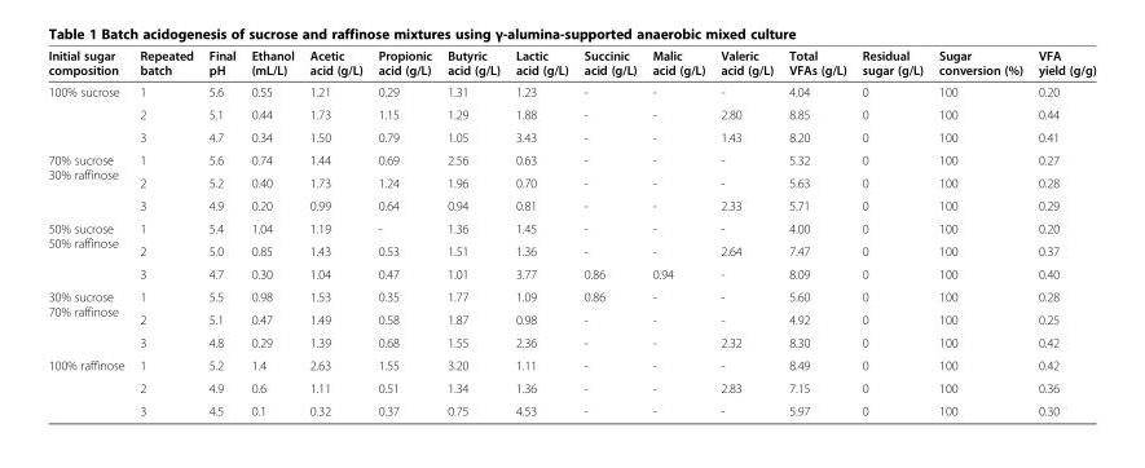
<table><thead><tr><td>Initial sugar composition</td><td>Repeated batch</td><td>Final pH</td><td>Ethanol (mL/L)</td><td>Acetic acid (g/L)</td><td>Propionic acid (g/L)</td><td>Butyric acid (g/L)</td><td>Lactic acid (g/L)</td><td>Succinic acid (g/L)</td><td>Malic acid (g/L)</td><td>Valeric acid (g/L)</td><td>Total VFAs (g/L)</td><td>Residual sugar (g/L)</td><td>Sugar conversion (%)</td><td>VFA yield (g/g)</td></tr></thead><tbody><tr><td rowspan="3">100% sucrose</td><td>1</td><td>5.6</td><td>0.55</td><td>1.21</td><td>0.29</td><td>1.31</td><td>1.23</td><td>-</td><td>-</td><td>-</td><td>4.04</td><td>0</td><td>100</td><td>0.20</td></tr><tr><td>2</td><td>5.1</td><td>0.44</td><td>1.73</td><td>1.15</td><td>1.29</td><td>1.88</td><td>-</td><td>-</td><td>2.80</td><td>8.85</td><td>0</td><td>100</td><td>0.44</td></tr><tr><td>3</td><td>4.7</td><td>0.34</td><td>1.50</td><td>0.79</td><td>1.05</td><td>3.43</td><td>-</td><td>-</td><td>1.43</td><td>8.20</td><td>0</td><td>100</td><td>0.41</td></tr><tr><td rowspan="3">70% sucrose 30% raffinose</td><td>1</td><td>5.6</td><td>0.74</td><td>1.44</td><td>0.69</td><td>2.56</td><td>0.63</td><td>-</td><td>-</td><td>-</td><td>5.32</td><td>0</td><td>100</td><td>0.27</td></tr><tr><td>2</td><td>5.2</td><td>0.40</td><td>1.73</td><td>1.24</td><td>1.96</td><td>0.70</td><td>-</td><td>-</td><td>-</td><td>5.63</td><td>0</td><td>100</td><td>0.28</td></tr><tr><td>3</td><td>4.9</td><td>0.20</td><td>0.99</td><td>0.64</td><td>0.94</td><td>0.81</td><td>-</td><td>-</td><td>2.33</td><td>5.71</td><td>0</td><td>100</td><td>0.29</td></tr><tr><td rowspan="3">50% sucrose 50% raffinose</td><td>1</td><td>5.4</td><td>1.04</td><td>1.19</td><td>-</td><td>1.36</td><td>1.45</td><td>-</td><td>-</td><td>-</td><td>4.00</td><td>0</td><td>100</td><td>0.20</td></tr><tr><td>2</td><td>5.0</td><td>0.85</td><td>1.43</td><td>0.53</td><td>1.51</td><td>1.36</td><td>-</td><td>-</td><td>2.64</td><td>7.47</td><td>0</td><td>100</td><td>0.37</td></tr><tr><td>3</td><td>4.7</td><td>0.30</td><td>1.04</td><td>0.47</td><td>1.01</td><td>3.77</td><td>0.86</td><td>0.94</td><td>-</td><td>8.09</td><td>0</td><td>100</td><td>0.40</td></tr><tr><td rowspan="3">30% sucrose 70% raffinose</td><td>1</td><td>5.5</td><td>0.98</td><td>1.53</td><td>0.35</td><td>1.77</td><td>1.09</td><td>0.86</td><td>-</td><td>-</td><td>5.60</td><td>0</td><td>100</td><td>0.28</td></tr><tr><td>2</td><td>5.1</td><td>0.47</td><td>1.49</td><td>0.58</td><td>1.87</td><td>0.98</td><td>-</td><td>-</td><td>-</td><td>4.92</td><td>0</td><td>100</td><td>0.25</td></tr><tr><td>3</td><td>4.8</td><td>0.29</td><td>1.39</td><td>0.68</td><td>1.55</td><td>2.36</td><td>-</td><td>-</td><td>2.32</td><td>8.30</td><td>0</td><td>100</td><td>0.42</td></tr><tr><td rowspan="3">100% raffinose</td><td>1</td><td>5.2</td><td>1.4</td><td>2.63</td><td>1.55</td><td>3.20</td><td>1.11</td><td>-</td><td>-</td><td>-</td><td>8.49</td><td>0</td><td>100</td><td>0.42</td></tr><tr><td>2</td><td>4.9</td><td>0.6</td><td>1.11</td><td>0.51</td><td>1.34</td><td>1.36</td><td>-</td><td>-</td><td>2.83</td><td>7.15</td><td>0</td><td>100</td><td>0.36</td></tr><tr><td>3</td><td>4.5</td><td>0.1</td><td>0.32</td><td>0.37</td><td>0.75</td><td>4.53</td><td>-</td><td>-</td><td>-</td><td>5.97</td><td>0</td><td>100</td><td>0.30</td></tr></tbody></table>